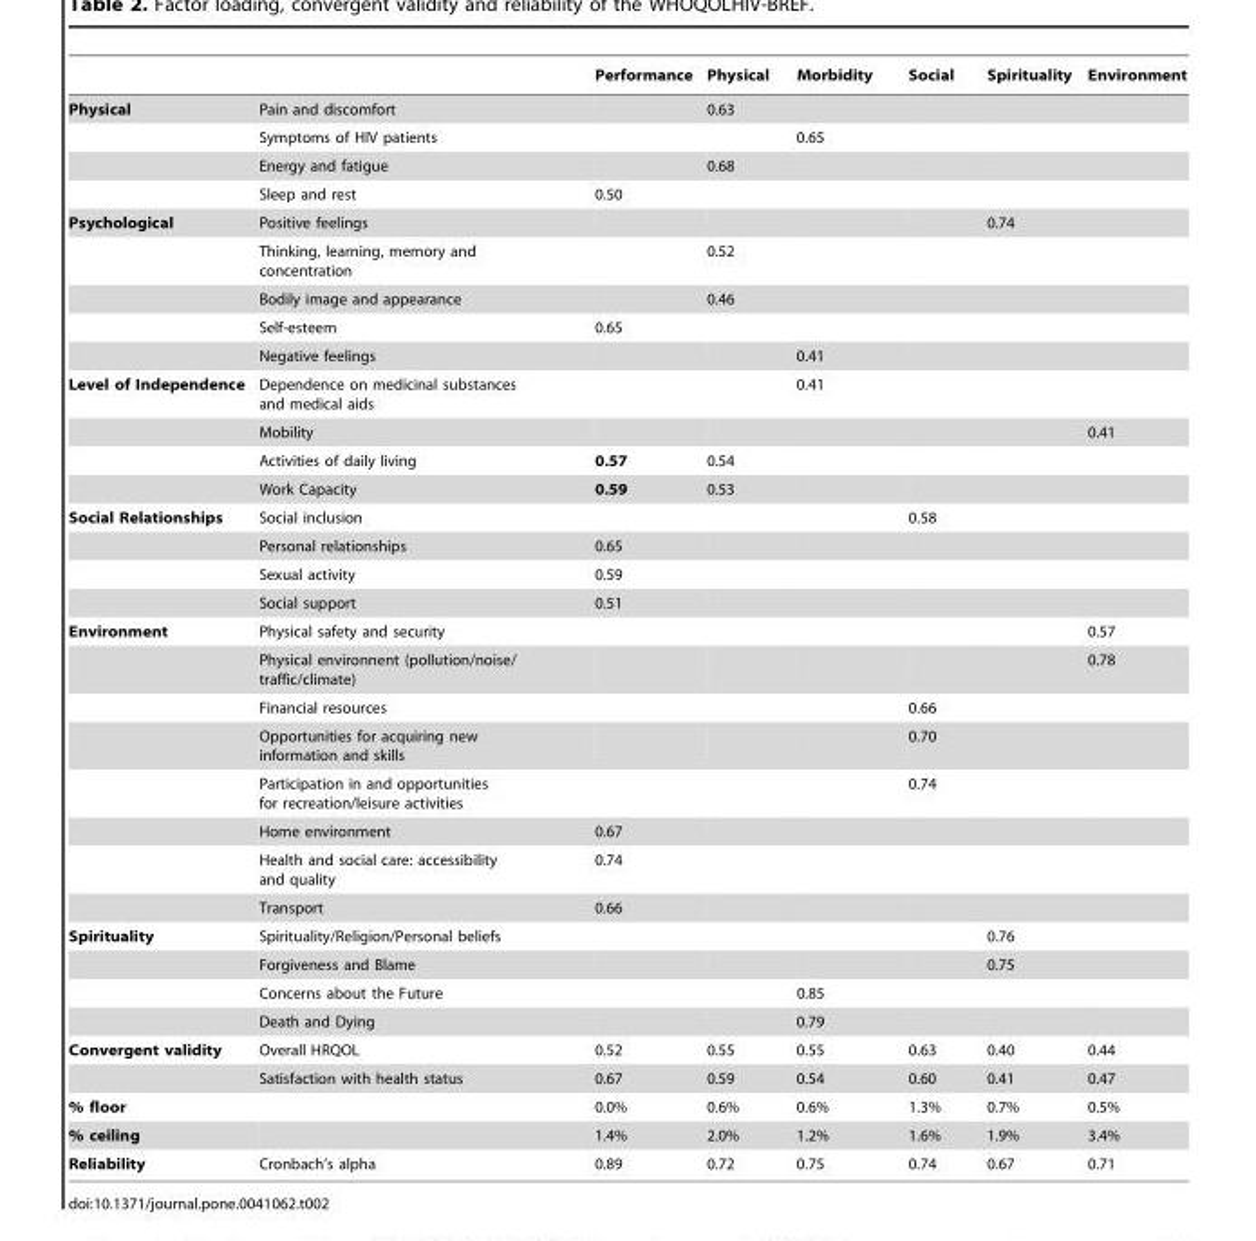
<table><thead><tr><td></td><td></td><td>Performance</td><td>Physical</td><td>Morbidity</td><td>Social</td><td>Spirituality</td><td>Environment</td></tr></thead><tbody><tr><td rowspan="4">Physical</td><td>Pain and discomfort</td><td></td><td>0.63</td><td></td><td></td><td></td><td></td></tr><tr><td>Symptoms of HIV patients</td><td></td><td></td><td>0.65</td><td></td><td></td><td></td></tr><tr><td>Energy and fatigue</td><td></td><td>0.68</td><td></td><td></td><td></td><td></td></tr><tr><td>Sleep and rest</td><td>0.50</td><td></td><td></td><td></td><td></td><td></td></tr><tr><td rowspan="5">Psychological</td><td>Positive feelings</td><td></td><td></td><td></td><td></td><td>0.74</td><td></td></tr><tr><td>Thinking, learning, memory and concentration</td><td></td><td>0.52</td><td></td><td></td><td></td><td></td></tr><tr><td>Bodily image and appearance</td><td></td><td>0.46</td><td></td><td></td><td></td><td></td></tr><tr><td>Self-esteem</td><td>0.65</td><td></td><td></td><td></td><td></td><td></td></tr><tr><td>Negative feelings</td><td></td><td></td><td>0.41</td><td></td><td></td><td></td></tr><tr><td rowspan="4">Level of Independence</td><td>Dependence on medicinal substances and medical aids</td><td></td><td></td><td>0.41</td><td></td><td></td><td></td></tr><tr><td>Mobility</td><td></td><td></td><td></td><td></td><td></td><td>0.41</td></tr><tr><td>Activities of daily living</td><td>0.57</td><td>0.54</td><td></td><td></td><td></td><td></td></tr><tr><td>Work Capacity</td><td>0.59</td><td>0.53</td><td></td><td></td><td></td><td></td></tr><tr><td rowspan="4">Social Relationships</td><td>Social inclusion</td><td></td><td></td><td></td><td>0.58</td><td></td><td></td></tr><tr><td>Personal relationships</td><td>0.65</td><td></td><td></td><td></td><td></td><td></td></tr><tr><td>Sexual activity</td><td>0.59</td><td></td><td></td><td></td><td></td><td></td></tr><tr><td>Social support</td><td>0.51</td><td></td><td></td><td></td><td></td><td></td></tr><tr><td rowspan="8">Environment</td><td>Physical safety and security</td><td></td><td></td><td></td><td></td><td></td><td>0.57</td></tr><tr><td>Physical environnent (pollution/noise/ traffic/climate)</td><td></td><td></td><td></td><td></td><td></td><td>0.78</td></tr><tr><td>Financial resources</td><td></td><td></td><td></td><td>0.66</td><td></td><td></td></tr><tr><td>Opportunities for acquiring new information and skills</td><td></td><td></td><td></td><td>0.70</td><td></td><td></td></tr><tr><td>Participation in and opportunities for recreation/leisure activities</td><td></td><td></td><td></td><td>0.74</td><td></td><td></td></tr><tr><td>Home environment</td><td>0.67</td><td></td><td></td><td></td><td></td><td></td></tr><tr><td>Health and social care: accessibility and quality</td><td>0.74</td><td></td><td></td><td></td><td></td><td></td></tr><tr><td>Transport</td><td>0.66</td><td></td><td></td><td></td><td></td><td></td></tr><tr><td rowspan="4">Spirituality</td><td>Spirituality/Religion/Personal beliefs</td><td></td><td></td><td></td><td></td><td>0.76</td><td></td></tr><tr><td>Forgiveness and Blame</td><td></td><td></td><td></td><td></td><td>0.75</td><td></td></tr><tr><td>Concerns about the Future</td><td></td><td></td><td>0.85</td><td></td><td></td><td></td></tr><tr><td>Death and Dying</td><td></td><td></td><td>0.79</td><td></td><td></td><td></td></tr><tr><td rowspan="2">Convergent validity</td><td>Overall HRQOL</td><td>0.52</td><td>0.55</td><td>0.55</td><td>0.63</td><td>0.40</td><td>0.44</td></tr><tr><td>Satisfaction with health status</td><td>0.67</td><td>0.59</td><td>0.54</td><td>0.60</td><td>0.41</td><td>0.47</td></tr><tr><td>% floor</td><td></td><td>0.0%</td><td>0.6%</td><td>0.6%</td><td>1.3%</td><td>0.7%</td><td>0.5%</td></tr><tr><td>% ceiling</td><td></td><td>1.4%</td><td>2.0%</td><td>1.2%</td><td>1.6%</td><td>1.9%</td><td>3.4%</td></tr><tr><td>Reliability</td><td>Cronbach’s alpha</td><td>0.89</td><td>0.72</td><td>0.75</td><td>0.74</td><td>0.67</td><td>0.71</td></tr></tbody></table>